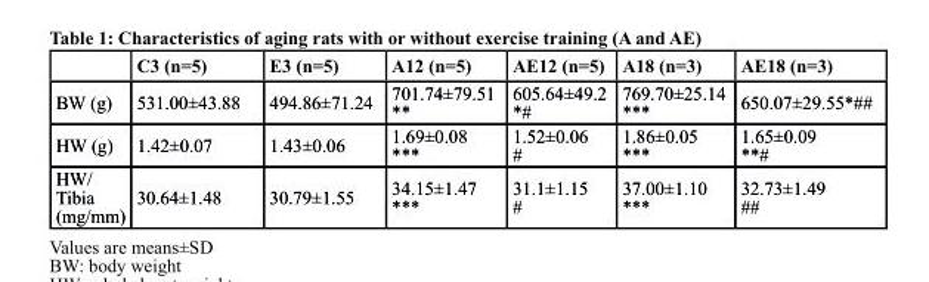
<table><thead><tr><td></td><td>c3 (n=5)</td><td>e3 (n=5)</td><td>A12 (n=5)</td><td>Ae12 (n=5)</td><td>A18 (n=3)</td><td>Ae18 (n=3)</td></tr></thead><tbody><tr><td>BW (g)</td><td>531.00±43.88</td><td>494.86±71.24</td><td>701.74±79.51 **</td><td>605.64±49.2 *#</td><td>769.70±25.14 ***</td><td>650.07±29.55*##</td></tr><tr><td>HW (g)</td><td>1.42±0.07</td><td>1.43±0.06</td><td>1.69±0.08 ***</td><td>1.52±0.06 #</td><td>1.86±0.05 ***</td><td>1.65±0.09 **#</td></tr><tr><td>HW/ Tibia (mg/mm)</td><td>30.64±1.48</td><td>30.79±1.55</td><td>34.15±1.47 ***</td><td>31.1±1.15 #</td><td>37.00±1.10 ***</td><td>32.73±1.49 ##</td></tr></tbody></table>